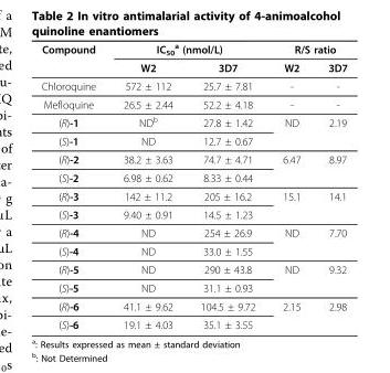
<table><thead><tr><td rowspan="2">Compound</td><td colspan="2">IC50 a (nmol/L)</td><td colspan="2">R/S ratio</td></tr><tr><td>W2</td><td>3D7</td><td>W2</td><td>3D7</td></tr></thead><tbody><tr><td>Chloroquine</td><td>572 ± 112</td><td>25.7 ± 7.81</td><td>-</td><td>-</td></tr><tr><td>Mefloquine</td><td>26.5 ± 2.44</td><td>52.2 ± 4.18</td><td>-</td><td>-</td></tr><tr><td>(R)-1</td><td>NDb</td><td>27.8 ± 1.42</td><td>ND</td><td>2.19</td></tr><tr><td>(S)-1</td><td>ND</td><td>12.7 ± 0.67</td><td></td><td></td></tr><tr><td>(R)-2</td><td>38.2 ± 3.63</td><td>74.7 ± 4.71</td><td>6.47</td><td>8.97</td></tr><tr><td>(S)-2</td><td>6.98 ± 0.62</td><td>8.33 ± 0.44</td><td></td><td></td></tr><tr><td>(R)-3</td><td>142 ± 11.2</td><td>205 ± 16.2</td><td>15.1</td><td>14.1</td></tr><tr><td>(S)-3</td><td>9.40 ± 0.91</td><td>14.5 ± 1.23</td><td></td><td></td></tr><tr><td>(R)-4</td><td>ND</td><td>254 ± 26.9</td><td>ND</td><td>7.70</td></tr><tr><td>(S)-4</td><td>ND</td><td>33.0 ± 1.55</td><td></td><td></td></tr><tr><td>(R)-5</td><td>ND</td><td>290 ± 43.8</td><td>ND</td><td>9.32</td></tr><tr><td>(S)-5</td><td>ND</td><td>31.1 ± 0.93</td><td></td><td></td></tr><tr><td>(R)-6</td><td>41.1 ± 9.62</td><td>104.5 ± 9.72</td><td>2.15</td><td>2.98</td></tr><tr><td>(S)-6</td><td>19.1 ± 4.03</td><td>35.1 ± 3.55</td><td></td><td></td></tr></tbody></table>